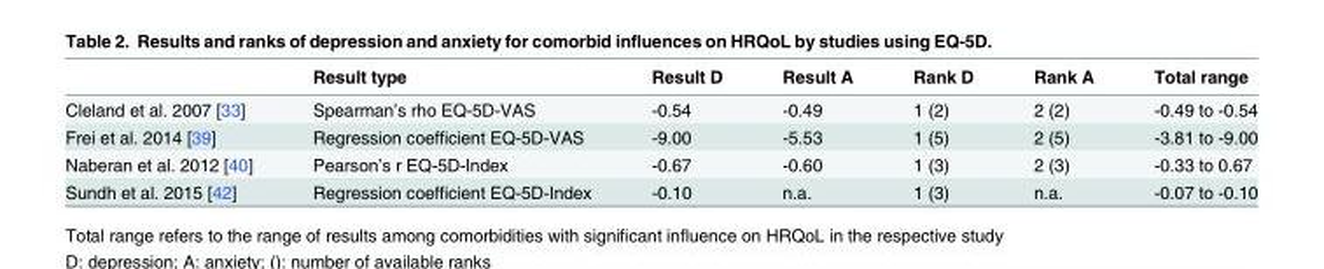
<table><thead><tr><td></td><td>Result type</td><td>Result D</td><td>Result A</td><td>Rank D</td><td>Rank A</td><td>Total range</td></tr></thead><tbody><tr><td>Cleland et al. 2007 [33]</td><td>Spearman’s rho EQ-5D-VAS</td><td>-0.54</td><td>-0.49</td><td>1 (2)</td><td>2 (2)</td><td>-0.49 to -0.54</td></tr><tr><td>Frei et al. 2014 [39]</td><td>Regression coefficient EQ-5D-VAS</td><td>-9.00</td><td>-5.53</td><td>1 (5)</td><td>2 (5)</td><td>-3.81 to -9.00</td></tr><tr><td>Naberan et al. 2012 [40]</td><td>Pearson’s r EQ-5D-Index</td><td>-0.67</td><td>-0.60</td><td>1 (3)</td><td>2 (3)</td><td>-0.33 to 0.67</td></tr><tr><td>Sundh et al. 2015 [42]</td><td>Regression coefficient EQ-5D-Index</td><td>-0.10</td><td>n.a.</td><td>1 (3)</td><td>n.a.</td><td>-0.07 to -0.10</td></tr></tbody></table>